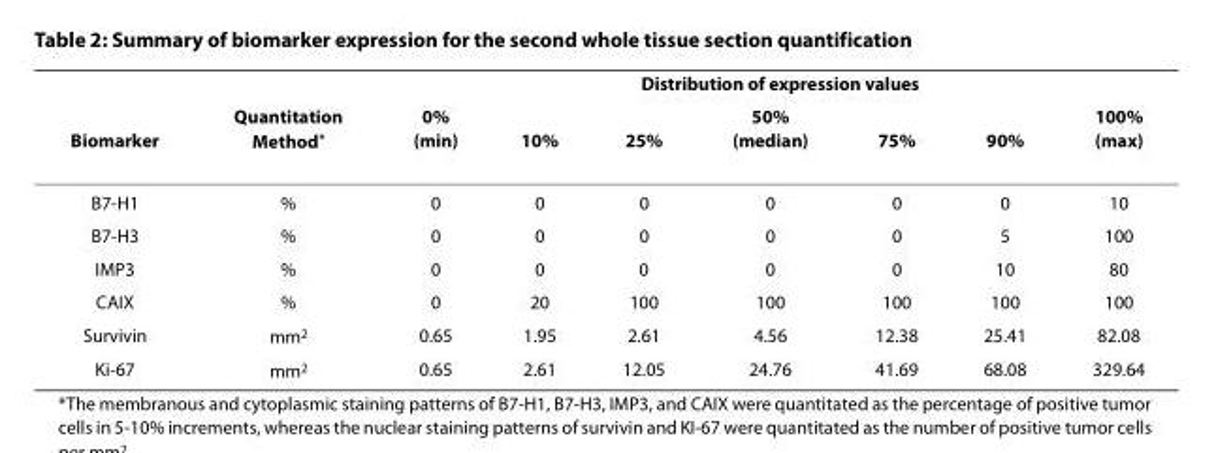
<table><thead><tr><td rowspan="2">Biomarker</td><td rowspan="2">Quantitation Method*</td><td colspan="7">Distribution of expression values</td></tr><tr><td>0% (min)</td><td>10%</td><td>25%</td><td>50% (median)</td><td>75%</td><td>90%</td><td>100% (max)</td></tr></thead><tbody><tr><td>B7-H1</td><td>%</td><td>0</td><td>0</td><td>0</td><td>0</td><td>0</td><td>0</td><td>10</td></tr><tr><td>B7-H3</td><td>%</td><td>0</td><td>0</td><td>0</td><td>0</td><td>0</td><td>5</td><td>100</td></tr><tr><td>IMP3</td><td>%</td><td>0</td><td>0</td><td>0</td><td>0</td><td>0</td><td>10</td><td>80</td></tr><tr><td>CAIX</td><td>%</td><td>0</td><td>20</td><td>100</td><td>100</td><td>100</td><td>100</td><td>100</td></tr><tr><td>Survivin</td><td>mm<sup>2</sup></td><td>0.65</td><td>1.95</td><td>2.61</td><td>4.56</td><td>12.38</td><td>25.41</td><td>82.08</td></tr><tr><td>Ki-67</td><td>mm<sup>2</sup></td><td>0.65</td><td>2.61</td><td>12.05</td><td>24.76</td><td>41.69</td><td>68.08</td><td>329.64</td></tr></tbody></table>